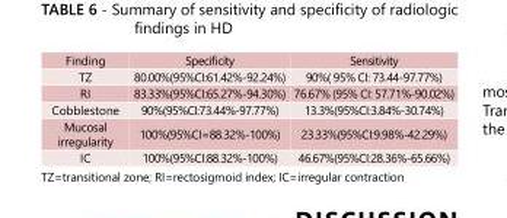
<table><tbody><tr><td>Finding</td><td>Specificity</td><td>Sensitivity</td></tr><tr><td>TZ</td><td>80.00%(95%CI:61.42%-92.24%)</td><td>90%( 95% CI: 73.44-97.77%)</td></tr><tr><td>RI</td><td>83.33%(95%CI:65.27%-94.30%)</td><td>76.67% (95% CI: 57.71%-90.02%)</td></tr><tr><td>Cobblestone</td><td>90%(95%CI:73.44%-97.77%)</td><td>13.3%(95%CI:3.84%-30.74%)</td></tr><tr><td>Mucosal irregularity</td><td>100%(95%CI=88.32%-100%)</td><td>23.33%(95%CI:9.98%-42.29%)</td></tr><tr><td>IC</td><td>100%(95%CI:88.32%-100%)</td><td>46.67%(95%CI:28.36%-65.66%)</td></tr></tbody></table>